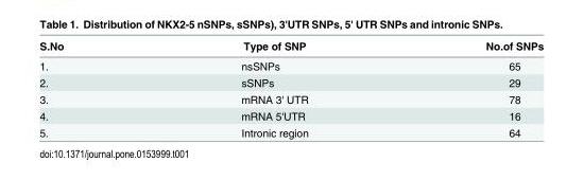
<table><thead><tr><td>S.No</td><td>Type of SNP</td><td>No.of SNPs</td></tr></thead><tbody><tr><td>1.</td><td>nsSNPs</td><td>65</td></tr><tr><td>2.</td><td>sSNPs</td><td>29</td></tr><tr><td>3.</td><td>mRNA 3&#x27; UTR</td><td>78</td></tr><tr><td>4.</td><td>mRNA 5&#x27;UTR</td><td>16</td></tr><tr><td>5.</td><td>Intronic region</td><td>64</td></tr></tbody></table>